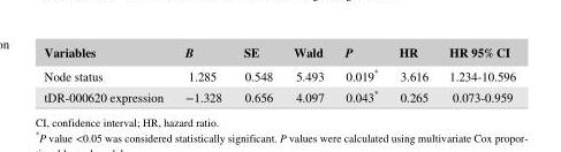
<table><thead><tr><td>Variables</td><td>B</td><td>SE</td><td>Wald</td><td>P</td><td>HR</td><td>HR 95% CI</td></tr></thead><tbody><tr><td>Node status</td><td>1.285</td><td>0.548</td><td>5.493</td><td>0.019*</td><td>3.616</td><td>1.234- 10.596</td></tr><tr><td>tDR- 000620 expression</td><td>−1.328</td><td>0.656</td><td>4.097</td><td>0.043*</td><td>0.265</td><td>0.073- 0.959</td></tr></tbody></table>